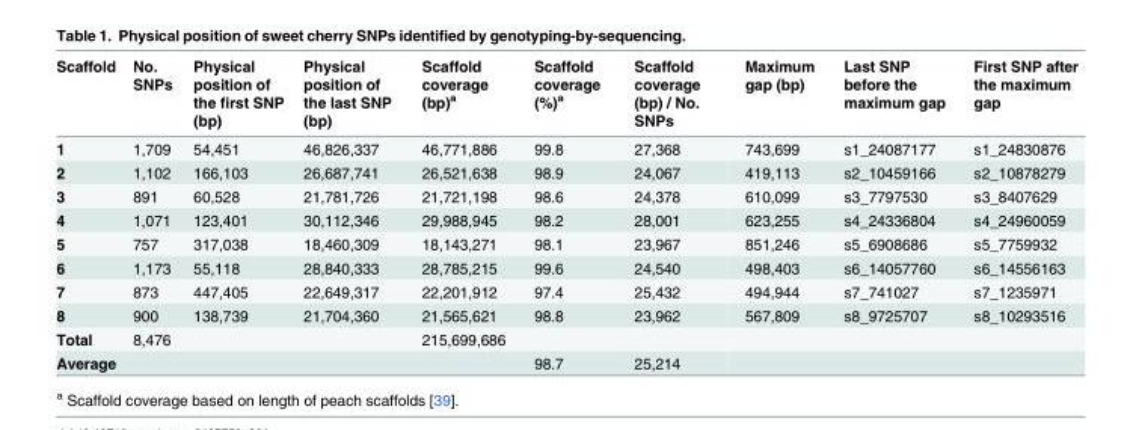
<table><thead><tr><td>Scaffold</td><td>No. SNPs</td><td>Physical position of the first SNP (bp)</td><td>Physical position of the last SNP (bp)</td><td>Scaffold coverage (bp)<sup>a</sup></td><td>Scaffold coverage (%)<sup>a</sup></td><td>Scaffold coverage (bp) / No. SNPs</td><td>Maximum gap (bp)</td><td>Last SNP before the maximum gap</td><td>First SNP after the maximum gap</td></tr></thead><tbody><tr><td>1</td><td>1,709</td><td>54,451</td><td>46,826,337</td><td>46,771,886</td><td>99.8</td><td>27,368</td><td>743,699</td><td>s1_24087177</td><td>s1_24830876</td></tr><tr><td>2</td><td>1,102</td><td>166,103</td><td>26,687,741</td><td>26,521,638</td><td>98.9</td><td>24,067</td><td>419,113</td><td>s2_10459166</td><td>s2_10878279</td></tr><tr><td>3</td><td>891</td><td>60,528</td><td>21,781,726</td><td>21,721,198</td><td>98.6</td><td>24,378</td><td>610,099</td><td>s3_7797530</td><td>s3_8407629</td></tr><tr><td>4</td><td>1,071</td><td>123,401</td><td>30,112,346</td><td>29,988,945</td><td>98.2</td><td>28,001</td><td>623,255</td><td>s4_24336804</td><td>s4_24960059</td></tr><tr><td>5</td><td>757</td><td>317,038</td><td>18,460,309</td><td>18,143,271</td><td>98.1</td><td>23,967</td><td>851,246</td><td>s5_6908686</td><td>s5_7759932</td></tr><tr><td>6</td><td>1,173</td><td>55,118</td><td>28,840,333</td><td>28,785,215</td><td>99.6</td><td>24,540</td><td>498,403</td><td>s6_14057760</td><td>s6_14556163</td></tr><tr><td>7</td><td>873</td><td>447,405</td><td>22,649,317</td><td>22,201,912</td><td>97.4</td><td>25,432</td><td>494,944</td><td>s7_741027</td><td>s7_1235971</td></tr><tr><td>8</td><td>900</td><td>138,739</td><td>21,704,360</td><td>21,565,621</td><td>98.8</td><td>23,962</td><td>567,809</td><td>s8_9725707</td><td>s8_10293516</td></tr><tr><td>Total</td><td>8,476</td><td></td><td></td><td>215,699,686</td><td></td><td></td><td></td><td></td><td></td></tr><tr><td>Average</td><td></td><td></td><td></td><td></td><td>98.7</td><td>25,214</td><td></td><td></td><td></td></tr></tbody></table>